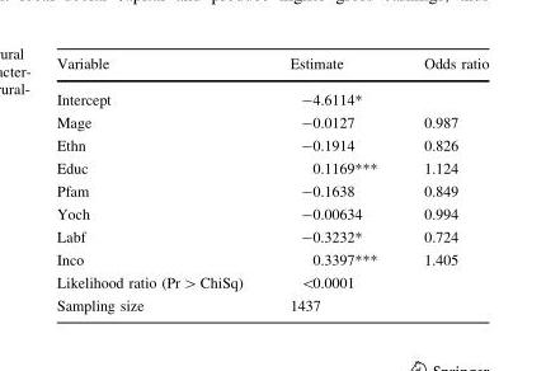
<table><thead><tr><td>Variable</td><td>Estimate</td><td>Odds ratio</td></tr></thead><tbody><tr><td>Intercept</td><td>-4.6114*</td><td></td></tr><tr><td>Mage</td><td>-0.0127</td><td>0.987</td></tr><tr><td>Ethn</td><td>-0.1914</td><td>0.826</td></tr><tr><td>Educ</td><td>0.1169***</td><td>1.124</td></tr><tr><td>Pfam</td><td>-0.1638</td><td>0.849</td></tr><tr><td>Yoch</td><td>-0.00634</td><td>0.994</td></tr><tr><td>Labf</td><td>-0.3232*</td><td>0.724</td></tr><tr><td>Inco</td><td>0.3397***</td><td>1.405</td></tr><tr><td>Likelihood ratio (Pr &gt; ChiSq)</td><td>&lt;0.0001</td><td></td></tr><tr><td>Sampling size</td><td>1437</td><td></td></tr></tbody></table>